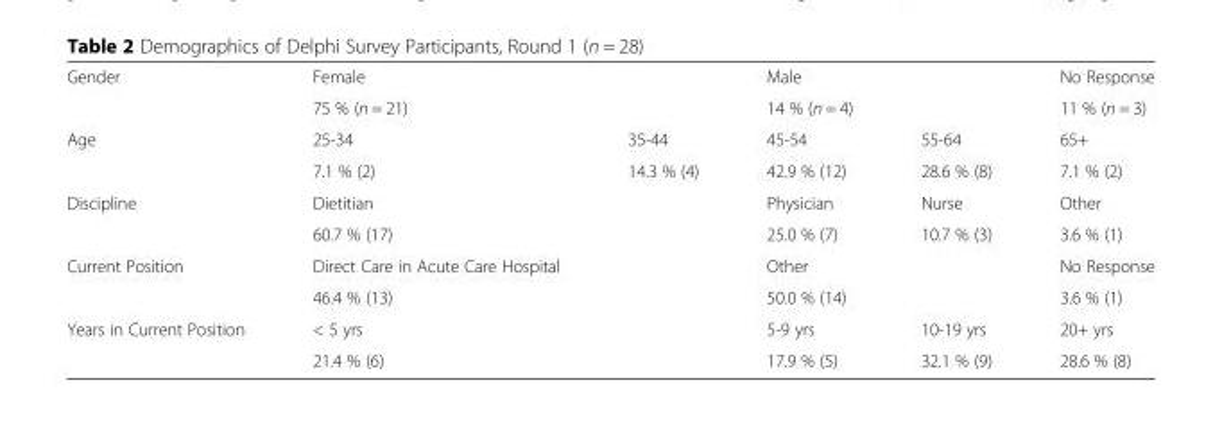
<table><tbody><tr><td rowspan="2">Gender</td><td>Female</td><td></td><td>Male</td><td></td><td>No Response</td></tr><tr><td>75 % (n = 21)</td><td></td><td>14 % (n = 4)</td><td></td><td>11 % (n = 3)</td></tr><tr><td rowspan="2">Age</td><td>25-34</td><td>35-44</td><td>45-54</td><td>55-64</td><td>65+</td></tr><tr><td>7.1 % (2)</td><td>14.3 % (4)</td><td>42.9 % (12)</td><td>28.6 % (8)</td><td>7.1 % (2)</td></tr><tr><td rowspan="2">Discipline</td><td>Dietitian</td><td></td><td>Physician</td><td>Nurse</td><td>Other</td></tr><tr><td>60.7 % (17)</td><td></td><td>25.0 % (7)</td><td>10.7 % (3)</td><td>3.6 % (1)</td></tr><tr><td rowspan="2">Current Position</td><td>Direct Care in Acute Care Hospital</td><td></td><td>Other</td><td></td><td>No Response</td></tr><tr><td>46.4 % (13)</td><td></td><td>50.0 % (14)</td><td></td><td>3.6 % (1)</td></tr><tr><td rowspan="2">Years in Current Position</td><td>&lt; 5 yrs</td><td></td><td>5-9 yrs</td><td>10-19 yrs</td><td>20+ yrs</td></tr><tr><td>21.4 % (6)</td><td></td><td>17.9 % (5)</td><td>32.1 % (9)</td><td>28.6 % (8)</td></tr></tbody></table>